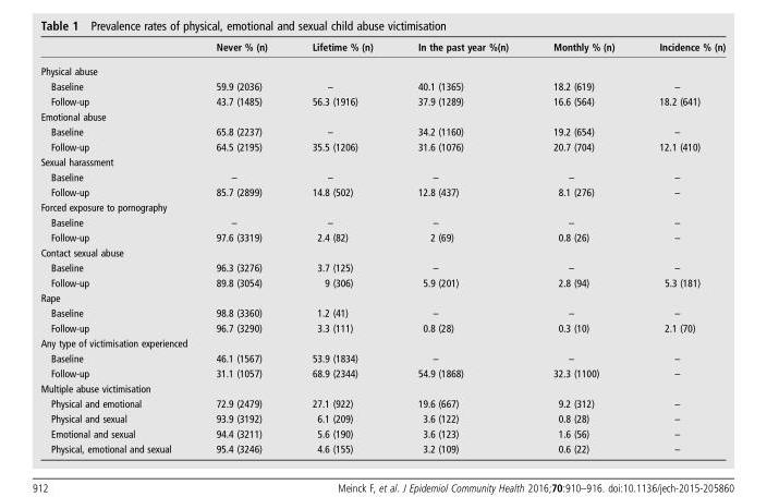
<table><thead><tr><td></td><td>Never % (n)</td><td>Lifetime % (n)</td><td>In the past year %(n)</td><td>Monthly % (n)</td><td>Incidence % (n)</td></tr></thead><tbody><tr><td colspan="6">Physical abuse</td></tr><tr><td>Baseline</td><td>59.9 (2036)</td><td>–</td><td>40.1 (1365)</td><td>18.2 (619)</td><td>–</td></tr><tr><td>Follow-up</td><td>43.7 (1485)</td><td>56.3 (1916)</td><td>37.9 (1289)</td><td>16.6 (564)</td><td>18.2 (641)</td></tr><tr><td colspan="6">Emotional abuse</td></tr><tr><td>Baseline</td><td>65.8 (2237)</td><td>–</td><td>34.2 (1160)</td><td>19.2 (654)</td><td>–</td></tr><tr><td>Follow-up</td><td>64.5 (2195)</td><td>35.5 (1206)</td><td>31.6 (1076)</td><td>20.7 (704)</td><td>12.1 (410)</td></tr><tr><td colspan="6">Sexual harassment</td></tr><tr><td>Baseline</td><td>–</td><td>–</td><td>–</td><td>–</td><td>–</td></tr><tr><td>Follow-up</td><td>85.7 (2899)</td><td>14.8 (502)</td><td>12.8 (437)</td><td>8.1 (276)</td><td>–</td></tr><tr><td colspan="6">Forced exposure to pornography</td></tr><tr><td>Baseline</td><td>–</td><td>–</td><td>–</td><td>–</td><td>–</td></tr><tr><td>Follow-up</td><td>97.6 (3319)</td><td>2.4 (82)</td><td>2 (69)</td><td>0.8 (26)</td><td>–</td></tr><tr><td colspan="6">Contact sexual abuse</td></tr><tr><td>Baseline</td><td>96.3 (3276)</td><td>3.7 (125)</td><td>–</td><td>–</td><td>–</td></tr><tr><td>Follow-up</td><td>89.8 (3054)</td><td>9 (306)</td><td>5.9 (201)</td><td>2.8 (94)</td><td>5.3 (181)</td></tr><tr><td colspan="6">Rape</td></tr><tr><td>Baseline</td><td>98.8 (3360)</td><td>1.2 (41)</td><td>–</td><td>–</td><td>–</td></tr><tr><td>Follow-up</td><td>96.7 (3290)</td><td>3.3 (111)</td><td>0.8 (28)</td><td>0.3 (10)</td><td>2.1 (70)</td></tr><tr><td colspan="6">Any type of victimisation experienced</td></tr><tr><td>Baseline</td><td>46.1 (1567)</td><td>53.9 (1834)</td><td>–</td><td>–</td><td>–</td></tr><tr><td>Follow-up</td><td>31.1 (1057)</td><td>68.9 (2344)</td><td>54.9 (1868)</td><td>32.3 (1100)</td><td>–</td></tr><tr><td colspan="6">Multiple abuse victimisation</td></tr><tr><td>Physical and emotional</td><td>72.9 (2479)</td><td>27.1 (922)</td><td>19.6 (667)</td><td>9.2 (312)</td><td>–</td></tr><tr><td>Physical and sexual</td><td>93.9 (3192)</td><td>6.1 (209)</td><td>3.6 (122)</td><td>0.8 (28)</td><td>–</td></tr><tr><td>Emotional and sexual</td><td>94.4 (3211)</td><td>5.6 (190)</td><td>3.6 (123)</td><td>1.6 (56)</td><td>–</td></tr><tr><td>Physical, emotional and sexual</td><td>95.4 (3246)</td><td>4.6 (155)</td><td>3.2 (109)</td><td>0.6 (22)</td><td>–</td></tr></tbody></table>